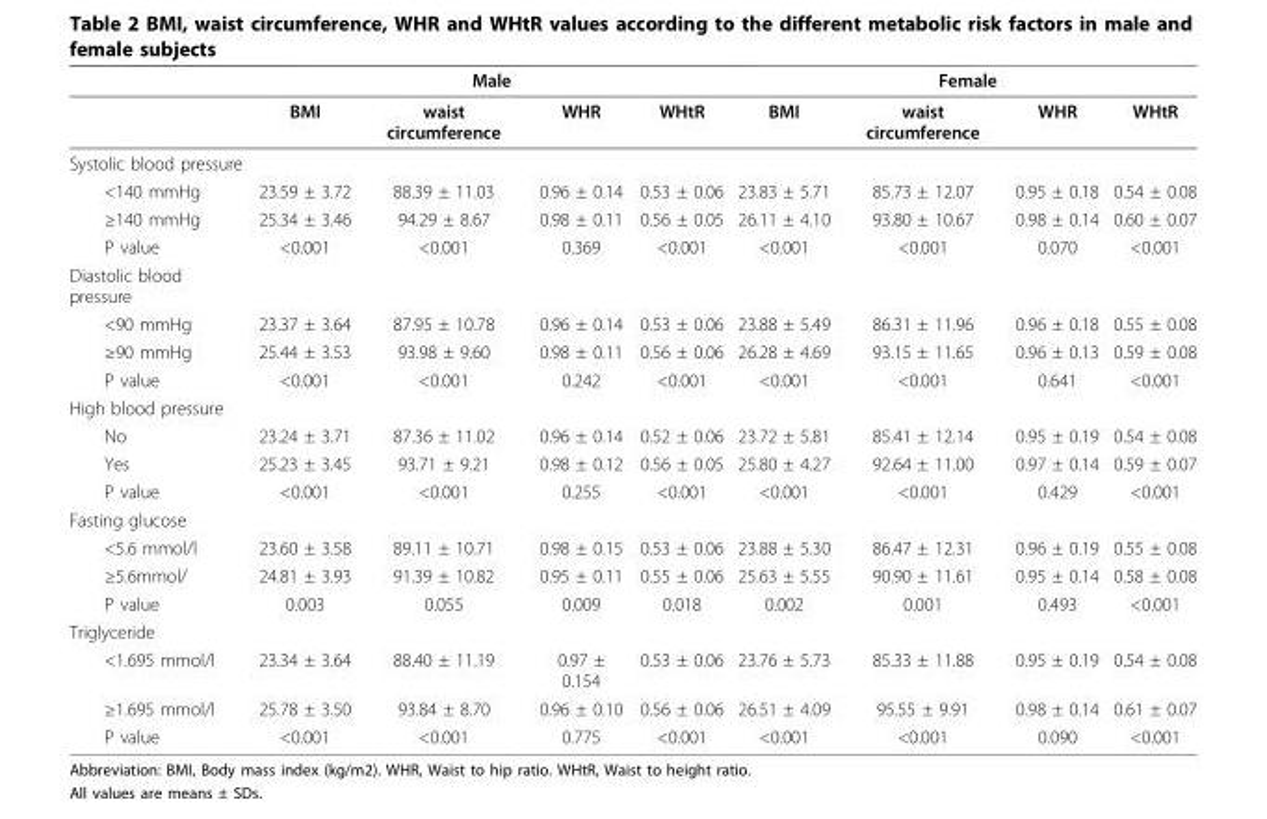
<table><thead><tr><td rowspan="2"></td><td colspan="4">Male</td><td colspan="4">Female</td></tr><tr><td>BMI</td><td>waist circumference</td><td>WHR</td><td>WHtR</td><td>BMI</td><td>waist circumference</td><td>WHR</td><td>WHtR</td></tr></thead><tbody><tr><td colspan="9">Systolic blood pressure</td></tr><tr><td>&lt;140 mmHg</td><td>23.59 ± 3.72</td><td>88.39 ± 11.03</td><td>0.96 ± 0.14</td><td>0.53 ± 0.06</td><td>23.83 ± 5.71</td><td>85.73 ± 12.07</td><td>0.95 ± 0.18</td><td>0.54 ± 0.08</td></tr><tr><td>≥140 mmHg</td><td>25.34 ± 3.46</td><td>94.29 ± 8.67</td><td>0.98 ± 0.11</td><td>0.56 ± 0.05</td><td>26.11 ± 4.10</td><td>93.80 ± 10.67</td><td>0.98 ± 0.14</td><td>0.60 ± 0.07</td></tr><tr><td>P value</td><td>&lt;0.001</td><td>&lt;0.001</td><td>0.369</td><td>&lt;0.001</td><td>&lt;0.001</td><td>&lt;0.001</td><td>0.070</td><td>&lt;0.001</td></tr><tr><td colspan="9">Diastolic blood pressure</td></tr><tr><td>&lt;90 mmHg</td><td>23.37 ± 3.64</td><td>87.95 ± 10.78</td><td>0.96 ± 0.14</td><td>0.53 ± 0.06</td><td>23.88 ± 5.49</td><td>86.31 ± 11.96</td><td>0.96 ± 0.18</td><td>0.55 ± 0.08</td></tr><tr><td>≥90 mmHg</td><td>25.44 ± 3.53</td><td>93.98 ± 9.60</td><td>0.98 ± 0.11</td><td>0.56 ± 0.06</td><td>26.28 ± 4.69</td><td>93.15 ± 11.65</td><td>0.96 ± 0.13</td><td>0.59 ± 0.08</td></tr><tr><td>P value</td><td>&lt;0.001</td><td>&lt;0.001</td><td>0.242</td><td>&lt;0.001</td><td>&lt;0.001</td><td>&lt;0.001</td><td>0.641</td><td>&lt;0.001</td></tr><tr><td colspan="9">High blood pressure</td></tr><tr><td>No</td><td>23.24 ± 3.71</td><td>87.36 ± 11.02</td><td>0.96 ± 0.14</td><td>0.52 ± 0.06</td><td>23.72 ± 5.81</td><td>85.41 ± 12.14</td><td>0.95 ± 0.19</td><td>0.54 ± 0.08</td></tr><tr><td>Yes</td><td>25.23 ± 3.45</td><td>93.71 ± 9.21</td><td>0.98 ± 0.12</td><td>0.56 ± 0.05</td><td>25.80 ± 4.27</td><td>92.64 ± 11.00</td><td>0.97 ± 0.14</td><td>0.59 ± 0.07</td></tr><tr><td>P value</td><td>&lt;0.001</td><td>&lt;0.001</td><td>0.255</td><td>&lt;0.001</td><td>&lt;0.001</td><td>&lt;0.001</td><td>0.429</td><td>&lt;0.001</td></tr><tr><td colspan="9">Fasting glucose</td></tr><tr><td>&lt;5.6 mmol/l</td><td>23.60 ± 3.58</td><td>89.11 ± 10.71</td><td>0.98 ± 0.15</td><td>0.53 ± 0.06</td><td>23.88 ± 5.30</td><td>86.47 ± 12.31</td><td>0.96 ± 0.19</td><td>0.55 ± 0.08</td></tr><tr><td>≥5.6mmol/</td><td>24.81 ± 3.93</td><td>91.39 ± 10.82</td><td>0.95 ± 0.11</td><td>0.55 ± 0.06</td><td>25.63 ± 5.55</td><td>90.90 ± 11.61</td><td>0.95 ± 0.14</td><td>0.58 ± 0.08</td></tr><tr><td>P value</td><td>0.003</td><td>0.055</td><td>0.009</td><td>0.018</td><td>0.002</td><td>0.001</td><td>0.493</td><td>&lt;0.001</td></tr><tr><td colspan="9">Triglyceride</td></tr><tr><td>&lt;1.695 mmol/l</td><td>23.34 ± 3.64</td><td>88.40 ± 11.19</td><td>0.97 ± 0.154</td><td>0.53 ± 0.06</td><td>23.76 ± 5.73</td><td>85.33 ± 11.88</td><td>0.95 ± 0.19</td><td>0.54 ± 0.08</td></tr><tr><td>≥1.695 mmol/l</td><td>25.78 ± 3.50</td><td>93.84 ± 8.70</td><td>0.96 ± 0.10</td><td>0.56 ± 0.06</td><td>26.51 ± 4.09</td><td>95.55 ± 9.91</td><td>0.98 ± 0.14</td><td>0.61 ± 0.07</td></tr><tr><td>P value</td><td>&lt;0.001</td><td>&lt;0.001</td><td>0.775</td><td>&lt;0.001</td><td>&lt;0.001</td><td>&lt;0.001</td><td>0.090</td><td>&lt;0.001</td></tr></tbody></table>